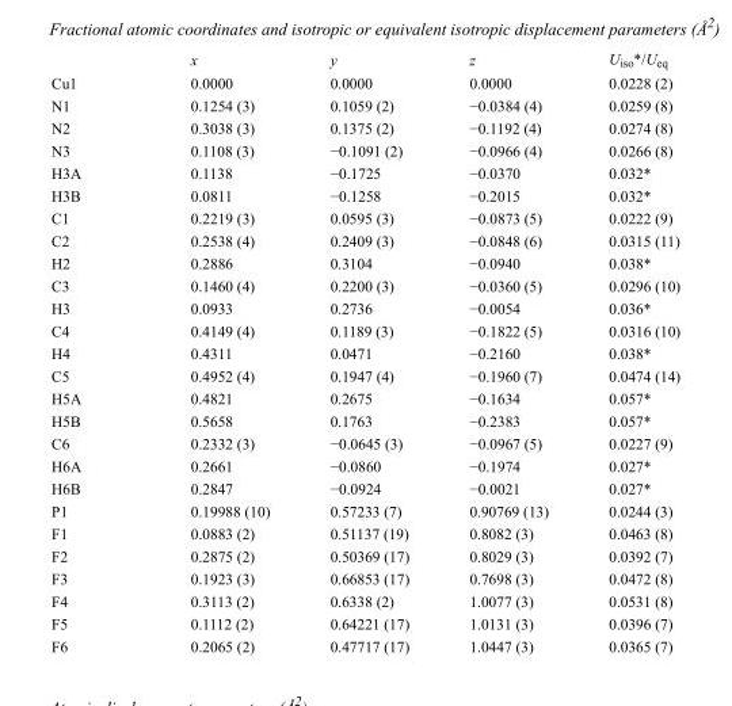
<table><thead><tr><td></td><td>x</td><td>y</td><td>z</td><td>U<sub>iso</sub>*/U<sub>eq</sub></td></tr></thead><tbody><tr><td>Cu1</td><td>0.0000</td><td>0.0000</td><td>0.0000</td><td>0.0228 (2)</td></tr><tr><td>N1</td><td>0.1254 (3)</td><td>0.1059 (2)</td><td>−0.0384 (4)</td><td>0.0259 (8)</td></tr><tr><td>N2</td><td>0.3038 (3)</td><td>0.1375 (2)</td><td>−0.1192 (4)</td><td>0.0274 (8)</td></tr><tr><td>N3</td><td>0.1108 (3)</td><td>−0.1091 (2)</td><td>−0.0966 (4)</td><td>0.0266 (8)</td></tr><tr><td>H3A</td><td>0.1138</td><td>−0.1725</td><td>−0.0370</td><td>0.032*</td></tr><tr><td>H3B</td><td>0.0811</td><td>−0.1258</td><td>−0.2015</td><td>0.032*</td></tr><tr><td>C1</td><td>0.2219 (3)</td><td>0.0595 (3)</td><td>−0.0873 (5)</td><td>0.0222 (9)</td></tr><tr><td>C2</td><td>0.2538 (4)</td><td>0.2409 (3)</td><td>−0.0848 (6)</td><td>0.0315 (11)</td></tr><tr><td>H2</td><td>0.2886</td><td>0.3104</td><td>−0.0940</td><td>0.038*</td></tr><tr><td>C3</td><td>0.1460 (4)</td><td>0.2200 (3)</td><td>−0.0360 (5)</td><td>0.0296 (10)</td></tr><tr><td>H3</td><td>0.0933</td><td>0.2736</td><td>−0.0054</td><td>0.036*</td></tr><tr><td>C4</td><td>0.4149 (4)</td><td>0.1189 (3)</td><td>−0.1822 (5)</td><td>0.0316 (10)</td></tr><tr><td>H4</td><td>0.4311</td><td>0.0471</td><td>−0.2160</td><td>0.038*</td></tr><tr><td>C5</td><td>0.4952 (4)</td><td>0.1947 (4)</td><td>−0.1960 (7)</td><td>0.0474 (14)</td></tr><tr><td>H5A</td><td>0.4821</td><td>0.2675</td><td>−0.1634</td><td>0.057*</td></tr><tr><td>H5B</td><td>0.5658</td><td>0.1763</td><td>−0.2383</td><td>0.057*</td></tr><tr><td>C6</td><td>0.2332 (3)</td><td>−0.0645 (3)</td><td>−0.0967 (5)</td><td>0.0227 (9)</td></tr><tr><td>H6A</td><td>0.2661</td><td>−0.0860</td><td>−0.1974</td><td>0.027*</td></tr><tr><td>H6B</td><td>0.2847</td><td>−0.0924</td><td>−0.0021</td><td>0.027*</td></tr><tr><td>P1</td><td>0.19988 (10)</td><td>0.57233 (7)</td><td>0.90769 (13)</td><td>0.0244 (3)</td></tr><tr><td>F1</td><td>0.0883 (2)</td><td>0.51137 (19)</td><td>0.8082 (3)</td><td>0.0463 (8)</td></tr><tr><td>F2</td><td>0.2875 (2)</td><td>0.50369 (17)</td><td>0.8029 (3)</td><td>0.0392 (7)</td></tr><tr><td>F3</td><td>0.1923 (3)</td><td>0.66853 (17)</td><td>0.7698 (3)</td><td>0.0472 (8)</td></tr><tr><td>F4</td><td>0.3113 (2)</td><td>0.6338 (2)</td><td>1.0077 (3)</td><td>0.0531 (8)</td></tr><tr><td>F5</td><td>0.1112 (2)</td><td>0.64221 (17)</td><td>1.0131 (3)</td><td>0.0396 (7)</td></tr><tr><td>F6</td><td>0.2065 (2)</td><td>0.47717 (17)</td><td>1.0447 (3)</td><td>0.0365 (7)</td></tr></tbody></table>